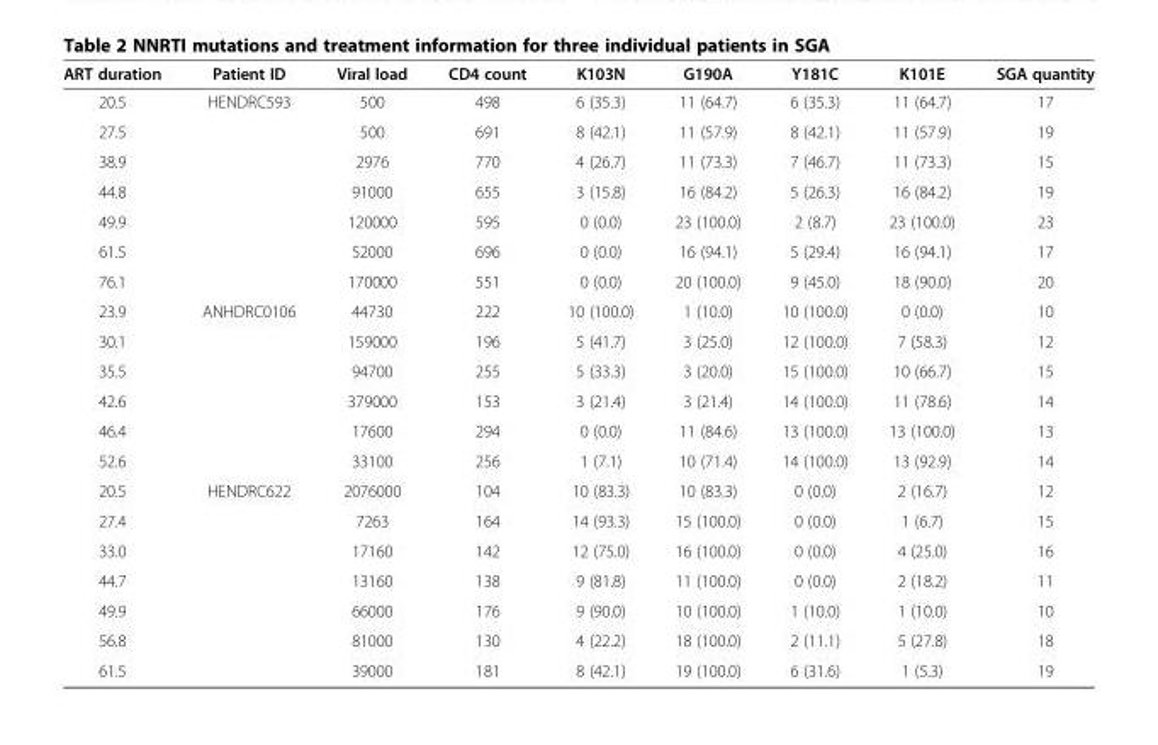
<table><thead><tr><td>ART duration</td><td>Patient ID</td><td>Viral load</td><td>CD4 count</td><td>K103N</td><td>G190A</td><td>Y181C</td><td>K101E</td><td>SGA quantity</td></tr></thead><tbody><tr><td>20.5</td><td rowspan="7">HENDRC593</td><td>500</td><td>498</td><td>6 (35.3)</td><td>11 (64.7)</td><td>6 (35.3)</td><td>11 (64.7)</td><td>17</td></tr><tr><td>27.5</td><td>500</td><td>691</td><td>8 (42.1)</td><td>11 (57.9)</td><td>8 (42.1)</td><td>11 (57.9)</td><td>19</td></tr><tr><td>38.9</td><td>2976</td><td>770</td><td>4 (26.7)</td><td>11 (73.3)</td><td>7 (46.7)</td><td>11 (73.3)</td><td>15</td></tr><tr><td>44.8</td><td>91000</td><td>655</td><td>3 (15.8)</td><td>16 (84.2)</td><td>5 (26.3)</td><td>16 (84.2)</td><td>19</td></tr><tr><td>49.9</td><td>120000</td><td>595</td><td>0 (0.0)</td><td>23 (100.0)</td><td>2 (8.7)</td><td>23 (100.0)</td><td>23</td></tr><tr><td>61.5</td><td>52000</td><td>696</td><td>0 (0.0)</td><td>16 (94.1)</td><td>5 (29.4)</td><td>16 (94.1)</td><td>17</td></tr><tr><td>76.1</td><td>170000</td><td>551</td><td>0 (0.0)</td><td>20 (100.0)</td><td>9 (45.0)</td><td>18 (90.0)</td><td>20</td></tr><tr><td>23.9</td><td rowspan="6">ANHDRC0106</td><td>44730</td><td>222</td><td>10 (100.0)</td><td>1 (10.0)</td><td>10 (100.0)</td><td>0 (0.0)</td><td>10</td></tr><tr><td>30.1</td><td>159000</td><td>196</td><td>5 (41.7)</td><td>3 (25.0)</td><td>12 (100.0)</td><td>7 (58.3)</td><td>12</td></tr><tr><td>35.5</td><td>94700</td><td>255</td><td>5 (33.3)</td><td>3 (20.0)</td><td>15 (100.0)</td><td>10 (66.7)</td><td>15</td></tr><tr><td>42.6</td><td>379000</td><td>153</td><td>3 (21.4)</td><td>3 (21.4)</td><td>14 (100.0)</td><td>11 (78.6)</td><td>14</td></tr><tr><td>46.4</td><td>17600</td><td>294</td><td>0 (0.0)</td><td>11 (84.6)</td><td>13 (100.0)</td><td>13 (100.0)</td><td>13</td></tr><tr><td>52.6</td><td>33100</td><td>256</td><td>1 (7.1)</td><td>10 (71.4)</td><td>14 (100.0)</td><td>13 (92.9)</td><td>14</td></tr><tr><td>20.5</td><td rowspan="7">HENDRC622</td><td>2076000</td><td>104</td><td>10 (83.3)</td><td>10 (83.3)</td><td>0 (0.0)</td><td>2 (16.7)</td><td>12</td></tr><tr><td>27.4</td><td>7263</td><td>164</td><td>14 (93.3)</td><td>15 (100.0)</td><td>0 (0.0)</td><td>1 (6.7)</td><td>15</td></tr><tr><td>33.0</td><td>17160</td><td>142</td><td>12 (75.0)</td><td>16 (100.0)</td><td>0 (0.0)</td><td>4 (25.0)</td><td>16</td></tr><tr><td>44.7</td><td>13160</td><td>138</td><td>9 (81.8)</td><td>11 (100.0)</td><td>0 (0.0)</td><td>2 (18.2)</td><td>11</td></tr><tr><td>49.9</td><td>66000</td><td>176</td><td>9 (90.0)</td><td>10 (100.0)</td><td>1 (10.0)</td><td>1 (10.0)</td><td>10</td></tr><tr><td>56.8</td><td>81000</td><td>130</td><td>4 (22.2)</td><td>18 (100.0)</td><td>2 (11.1)</td><td>5 (27.8)</td><td>18</td></tr><tr><td>61.5</td><td>39000</td><td>181</td><td>8 (42.1)</td><td>19 (100.0)</td><td>6 (31.6)</td><td>1 (5.3)</td><td>19</td></tr></tbody></table>